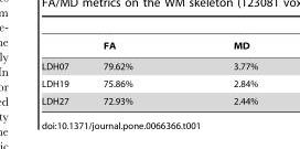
<table><thead><tr><td></td><td>FA</td><td>MD</td></tr></thead><tbody><tr><td>LDH07</td><td>79.62%</td><td>3.77%</td></tr><tr><td>LDH19</td><td>75.86%</td><td>2.84%</td></tr><tr><td>LDH27</td><td>72.93%</td><td>2.44%</td></tr></tbody></table>